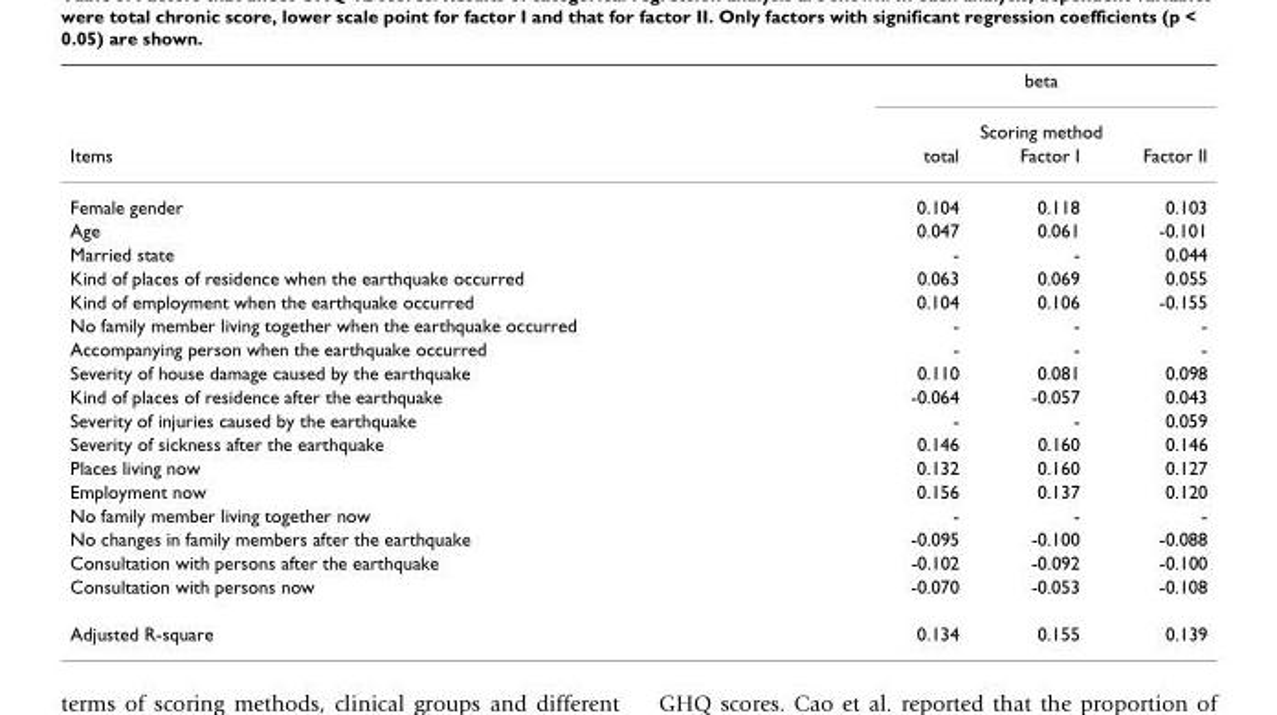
<table><thead><tr><td rowspan="3">Items</td><td rowspan="2" colspan="3">beta Scoring method</td></tr><tr></tr><tr><td>total</td><td>Factor I</td><td>Factor II</td></tr></thead><tbody><tr><td>Female gender</td><td>0.104</td><td>0.118</td><td>0.103</td></tr><tr><td>Age</td><td>0.047</td><td>0.061</td><td>-0.101</td></tr><tr><td>Married state</td><td>-</td><td>-</td><td>0.044</td></tr><tr><td>Kind of places of residence when the earthquake occurred</td><td>0.063</td><td>0.069</td><td>0.055</td></tr><tr><td>Kind of employment when the earthquake occurred</td><td>0.104</td><td>0.106</td><td>-0.155</td></tr><tr><td>No family member living together when the earthquake occurred</td><td>-</td><td>-</td><td>-</td></tr><tr><td>Accompanying person when the earthquake occurred</td><td>-</td><td>-</td><td>-</td></tr><tr><td>Severity of house damage caused by the earthquake</td><td>0.110</td><td>0.081</td><td>0.098</td></tr><tr><td>Kind of places of residence after the earthquake</td><td>-0.064</td><td>-0.057</td><td>0.043</td></tr><tr><td>Severity of injuries caused by the earthquake</td><td>-</td><td>-</td><td>0.059</td></tr><tr><td>Severity of sickness after the earthquake</td><td>0.146</td><td>0.160</td><td>0.146</td></tr><tr><td>Places living now</td><td>0.132</td><td>0.160</td><td>0.127</td></tr><tr><td>Employment now</td><td>0.156</td><td>0.137</td><td>0.120</td></tr><tr><td>No family member living together now</td><td>-</td><td>-</td><td>-</td></tr><tr><td>No changes in family members after the earthquake</td><td>-0.095</td><td>-0.100</td><td>-0.088</td></tr><tr><td>Consultation with persons after the earthquake</td><td>-0.102</td><td>-0.092</td><td>-0.100</td></tr><tr><td>Consultation with persons now</td><td>-0.070</td><td>-0.053</td><td>-0.108</td></tr><tr><td>Adjusted R-square</td><td>0.134</td><td>0.155</td><td>0.139</td></tr></tbody></table>